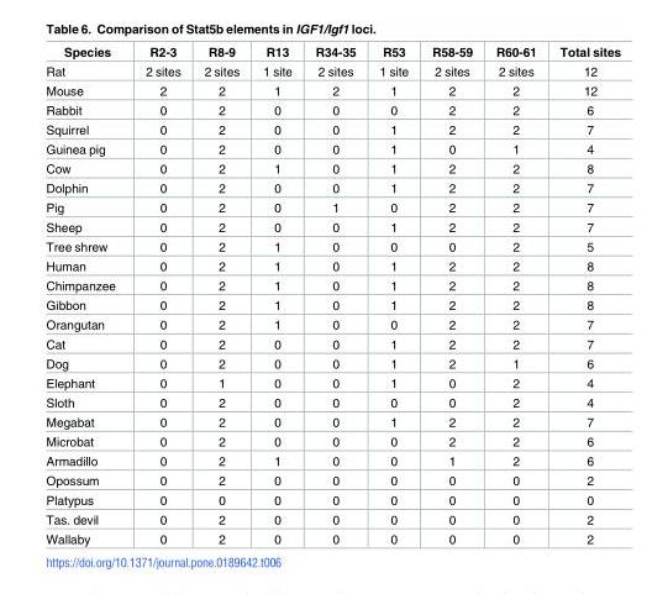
<table><thead><tr><td>Species</td><td>R2-3</td><td>R8-9</td><td>R13</td><td>R34-35</td><td>R53</td><td>R58-59</td><td>R60-61</td><td>Total sites</td></tr></thead><tbody><tr><td>Rat</td><td>2 sites</td><td>2 sites</td><td>1 site</td><td>2 sites</td><td>1 site</td><td>2 sites</td><td>2 sites</td><td>12</td></tr><tr><td>Mouse</td><td>2</td><td>2</td><td>1</td><td>2</td><td>1</td><td>2</td><td>2</td><td>12</td></tr><tr><td>Rabbit</td><td>0</td><td>2</td><td>0</td><td>0</td><td>0</td><td>2</td><td>2</td><td>6</td></tr><tr><td>Squirrel</td><td>0</td><td>2</td><td>0</td><td>0</td><td>1</td><td>2</td><td>2</td><td>7</td></tr><tr><td>Guinea pig</td><td>0</td><td>2</td><td>0</td><td>0</td><td>1</td><td>0</td><td>1</td><td>4</td></tr><tr><td>Cow</td><td>0</td><td>2</td><td>1</td><td>0</td><td>1</td><td>2</td><td>2</td><td>8</td></tr><tr><td>Dolphin</td><td>0</td><td>2</td><td>0</td><td>0</td><td>1</td><td>2</td><td>2</td><td>7</td></tr><tr><td>Pig</td><td>0</td><td>2</td><td>0</td><td>1</td><td>0</td><td>2</td><td>2</td><td>7</td></tr><tr><td>Sheep</td><td>0</td><td>2</td><td>0</td><td>0</td><td>1</td><td>2</td><td>2</td><td>7</td></tr><tr><td>Tree shrew</td><td>0</td><td>2</td><td>1</td><td>0</td><td>0</td><td>0</td><td>2</td><td>5</td></tr><tr><td>Human</td><td>0</td><td>2</td><td>1</td><td>0</td><td>1</td><td>2</td><td>2</td><td>8</td></tr><tr><td>Chimpanzee</td><td>0</td><td>2</td><td>1</td><td>0</td><td>1</td><td>2</td><td>2</td><td>8</td></tr><tr><td>Gibbon</td><td>0</td><td>2</td><td>1</td><td>0</td><td>1</td><td>2</td><td>2</td><td>8</td></tr><tr><td>Orangutan</td><td>0</td><td>2</td><td>1</td><td>0</td><td>0</td><td>2</td><td>2</td><td>7</td></tr><tr><td>Cat</td><td>0</td><td>2</td><td>0</td><td>0</td><td>1</td><td>2</td><td>2</td><td>7</td></tr><tr><td>Dog</td><td>0</td><td>2</td><td>0</td><td>0</td><td>1</td><td>2</td><td>1</td><td>6</td></tr><tr><td>Elephant</td><td>0</td><td>1</td><td>0</td><td>0</td><td>1</td><td>0</td><td>2</td><td>4</td></tr><tr><td>Sloth</td><td>0</td><td>2</td><td>0</td><td>0</td><td>0</td><td>0</td><td>2</td><td>4</td></tr><tr><td>Megabat</td><td>0</td><td>2</td><td>0</td><td>0</td><td>1</td><td>2</td><td>2</td><td>7</td></tr><tr><td>Microbat</td><td>0</td><td>2</td><td>0</td><td>0</td><td>0</td><td>2</td><td>2</td><td>6</td></tr><tr><td>Armadillo</td><td>0</td><td>2</td><td>1</td><td>0</td><td>0</td><td>1</td><td>2</td><td>6</td></tr><tr><td>Opossum</td><td>0</td><td>2</td><td>0</td><td>0</td><td>0</td><td>0</td><td>0</td><td>2</td></tr><tr><td>Platypus</td><td>0</td><td>0</td><td>0</td><td>0</td><td>0</td><td>0</td><td>0</td><td>0</td></tr><tr><td>Tas. devil</td><td>0</td><td>2</td><td>0</td><td>0</td><td>0</td><td>0</td><td>0</td><td>2</td></tr><tr><td>Wallaby</td><td>0</td><td>2</td><td>0</td><td>0</td><td>0</td><td>0</td><td>0</td><td>2</td></tr></tbody></table>